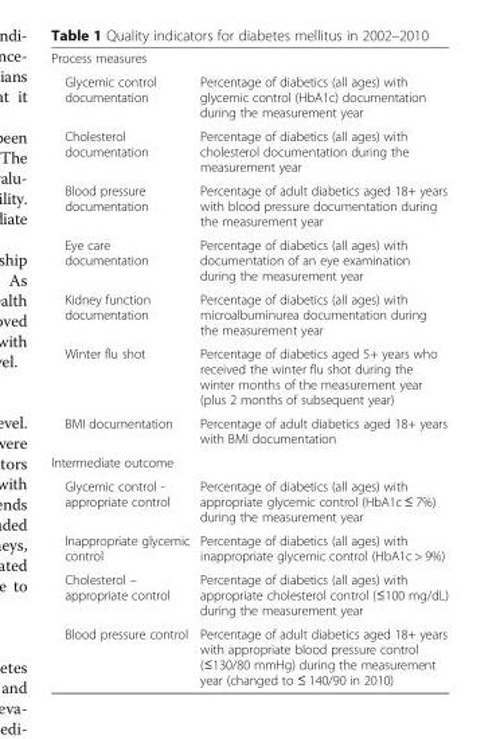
<table><tbody><tr><td colspan="2">Process measures</td></tr><tr><td>Glycemic control documentation</td><td>Percentage of diabetics (all ages) with glycemic control (HbA1c) documentation during the measurement year</td></tr><tr><td>Cholesterol documentation</td><td>Percentage of diabetics (all ages) with cholesterol documentation during the measurement year</td></tr><tr><td>Blood pressure documentation</td><td>Percentage of adult diabetics aged 18+ years with blood pressure documentation during the measurement year</td></tr><tr><td>Eye care documentation</td><td>Percentage of diabetics (all ages) with documentation of an eye examination during the measurement year</td></tr><tr><td>Kidney function documentation</td><td>Percentage of diabetics (all ages) with microalbuminurea documentation during the measurement year</td></tr><tr><td>Winter flu shot</td><td>Percentage of diabetics aged 5+ years who received the winter flu shot during the winter months of the measurement year (plus 2 months of subsequent year)</td></tr><tr><td>BMI documentation</td><td>Percentage of adult diabetics aged 18+ years with BMI documentation</td></tr><tr><td colspan="2">Intermediate outcome</td></tr><tr><td>Glycemic control - appropriate control</td><td>Percentage of diabetics (all ages) with appropriate glycemic control (HbA1c ≤ 7%) during the measurement year</td></tr><tr><td>Inappropriate glycemic control</td><td>Percentage of diabetics (all ages) with inappropriate glycemic control (HbA1c &gt; 9%)</td></tr><tr><td>Cholesterol – appropriate control</td><td>Percentage of diabetics (all ages) with appropriate cholesterol control (≤100 mg/dL) during the measurement year</td></tr><tr><td>Blood pressure control</td><td>Percentage of adult diabetics aged 18+ years with appropriate blood pressure control (≤130/80 mmHg) during the measurement year (changed to ≤ 140/90 in 2010)</td></tr></tbody></table>